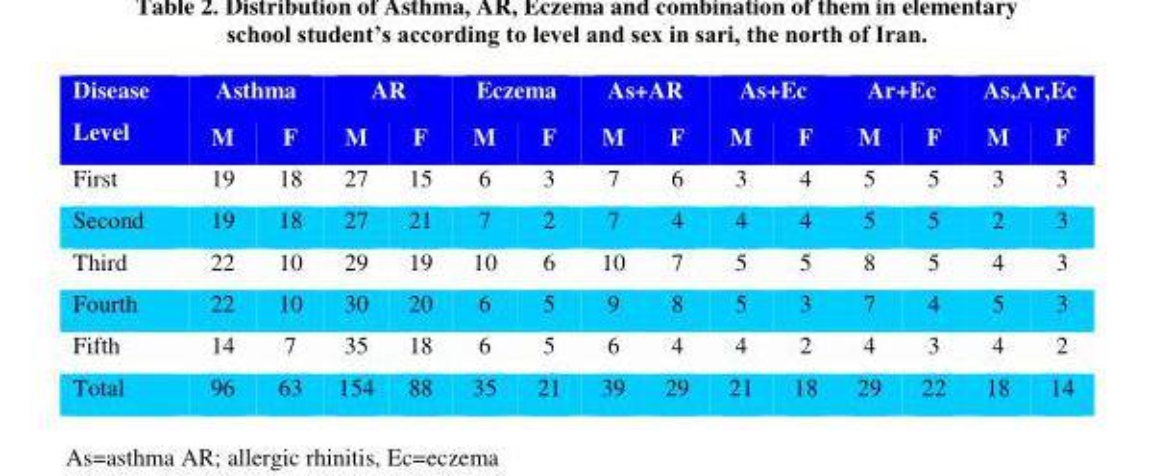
<table><thead><tr><td rowspan="2">Disease Level</td><td colspan="2">Asthma</td><td colspan="2">AR</td><td colspan="2">Eczema</td><td colspan="2">As+AR</td><td colspan="2">As+Ec</td><td colspan="2">Ar+Ec</td><td colspan="2">As,Ar,Ec</td></tr><tr><td>M</td><td>F</td><td>M</td><td>F</td><td>M</td><td>F</td><td>M</td><td>F</td><td>M</td><td>F</td><td>M</td><td>F</td><td>M</td><td>F</td></tr></thead><tbody><tr><td>First</td><td>19</td><td>18</td><td>27</td><td>15</td><td>6</td><td>3</td><td>7</td><td>6</td><td>3</td><td>4</td><td>5</td><td>5</td><td>3</td><td>3</td></tr><tr><td>Second</td><td>19</td><td>18</td><td>27</td><td>21</td><td>7</td><td>2</td><td>7</td><td>4</td><td>4</td><td>4</td><td>5</td><td>5</td><td>2</td><td>3</td></tr><tr><td>Third</td><td>22</td><td>10</td><td>29</td><td>19</td><td>10</td><td>6</td><td>10</td><td>7</td><td>5</td><td>5</td><td>8</td><td>5</td><td>4</td><td>3</td></tr><tr><td>Fourth</td><td>22</td><td>10</td><td>30</td><td>20</td><td>6</td><td>5</td><td>9</td><td>8</td><td>5</td><td>3</td><td>7</td><td>4</td><td>5</td><td>3</td></tr><tr><td>Fifth</td><td>14</td><td>7</td><td>35</td><td>18</td><td>6</td><td>5</td><td>6</td><td>4</td><td>4</td><td>2</td><td>4</td><td>3</td><td>4</td><td>2</td></tr><tr><td>Total</td><td>96</td><td>63</td><td>154</td><td>88</td><td>35</td><td>21</td><td>39</td><td>29</td><td>21</td><td>18</td><td>29</td><td>22</td><td>18</td><td>14</td></tr></tbody></table>